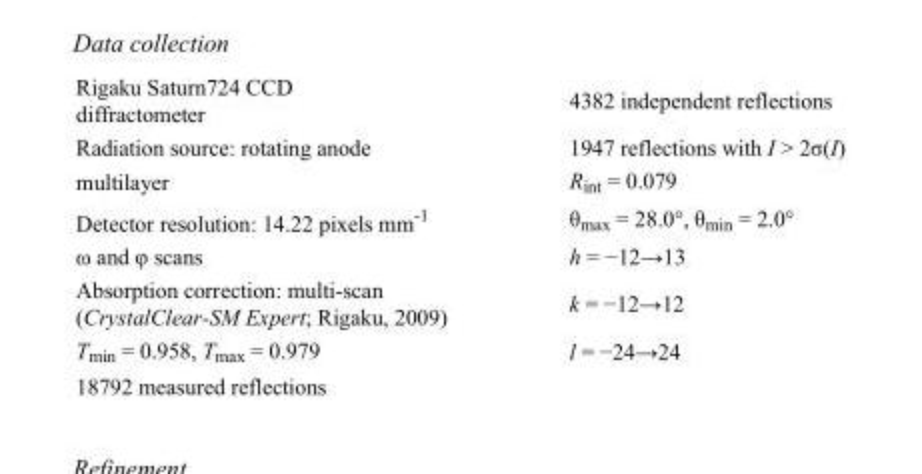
<table><tbody><tr><td>Rigaku Saturn724 CCD diffractometer</td><td>4382 independent reflections</td></tr><tr><td>Radiation source: rotating anode</td><td>1947 reflections with I &gt; 2σ(I)</td></tr><tr><td>multilayer</td><td>R<sub>int</sub> = 0.079</td></tr><tr><td>Detector resolution: 14.22 pixels mm<sup>-1</sup></td><td>θ<sub>max</sub> = 28.0°, θ<sub>min</sub> = 2.0°</td></tr><tr><td>ω and φ scans</td><td>h = −12→13</td></tr><tr><td>Absorption correction: multi-scan (CrystalClear-SM Expert; Rigaku, 2009)</td><td>k = −12→12</td></tr><tr><td>T<sub>min</sub> = 0.958, T<sub>max</sub> = 0.979</td><td>l = −24→24</td></tr><tr><td>18792 measured reflections</td><td></td></tr></tbody></table>